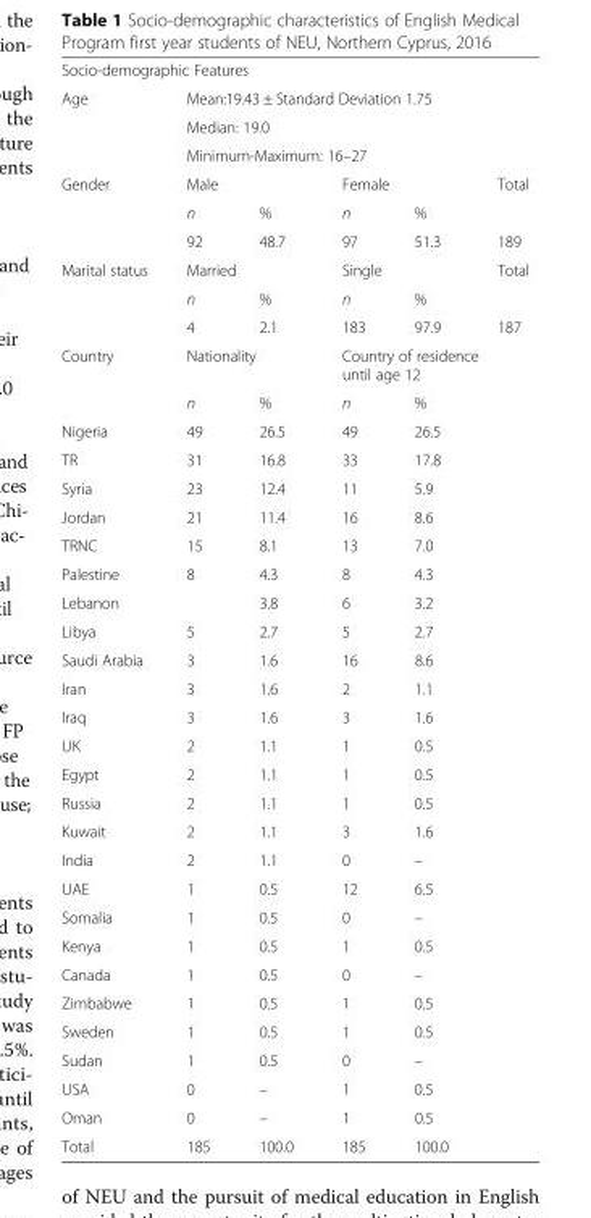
<table><tbody><tr><td colspan="6">Socio-demographic Features</td></tr><tr><td rowspan="3">Age</td><td colspan="5">Mean:19.43 ± Standard Deviation 1.75</td></tr><tr><td colspan="5">Median: 19.0</td></tr><tr><td colspan="5">Minimum-Maximum: 16–27</td></tr><tr><td rowspan="3">Gender</td><td colspan="2">Male</td><td colspan="2">Female</td><td rowspan="2">Total</td></tr><tr><td>n</td><td>%</td><td>n</td><td>%</td></tr><tr><td>92</td><td>48.7</td><td>97</td><td>51.3</td><td>189</td></tr><tr><td rowspan="3">Marital status</td><td colspan="2">Married</td><td colspan="2">Single</td><td rowspan="2">Total</td></tr><tr><td>n</td><td>%</td><td>n</td><td>%</td></tr><tr><td>4</td><td>2.1</td><td>183</td><td>97.9</td><td>187</td></tr><tr><td rowspan="2">Country</td><td colspan="2">Nationality</td><td colspan="3">Country of residence until age 12</td></tr><tr><td>n</td><td>%</td><td>n</td><td>%</td><td></td></tr><tr><td>Nigeria</td><td>49</td><td>26.5</td><td>49</td><td>26.5</td><td></td></tr><tr><td>TR</td><td>31</td><td>16.8</td><td>33</td><td>17.8</td><td></td></tr><tr><td>Syria</td><td>23</td><td>12.4</td><td>11</td><td>5.9</td><td></td></tr><tr><td>Jordan</td><td>21</td><td>11.4</td><td>16</td><td>8.6</td><td></td></tr><tr><td>TRNC</td><td>15</td><td>8.1</td><td>13</td><td>7.0</td><td></td></tr><tr><td>Palestine</td><td>8</td><td>4.3</td><td>8</td><td>4.3</td><td></td></tr><tr><td>Lebanon</td><td></td><td>3.8</td><td>6</td><td>3.2</td><td></td></tr><tr><td>Libya</td><td>5</td><td>2.7</td><td>5</td><td>2.7</td><td></td></tr><tr><td>Saudi Arabia</td><td>3</td><td>1.6</td><td>16</td><td>8.6</td><td></td></tr><tr><td>Iran</td><td>3</td><td>1.6</td><td>2</td><td>1.1</td><td></td></tr><tr><td>Iraq</td><td>3</td><td>1.6</td><td>3</td><td>1.6</td><td></td></tr><tr><td>UK</td><td>2</td><td>1.1</td><td>1</td><td>0.5</td><td></td></tr><tr><td>Egypt</td><td>2</td><td>1.1</td><td>1</td><td>0.5</td><td></td></tr><tr><td>Russia</td><td>2</td><td>1.1</td><td>1</td><td>0.5</td><td></td></tr><tr><td>Kuwait</td><td>2</td><td>1.1</td><td>3</td><td>1.6</td><td></td></tr><tr><td>India</td><td>2</td><td>1.1</td><td>0</td><td>–</td><td></td></tr><tr><td>UAE</td><td>1</td><td>0.5</td><td>12</td><td>6.5</td><td></td></tr><tr><td>Somalia</td><td>1</td><td>0.5</td><td>0</td><td>–</td><td></td></tr><tr><td>Kenya</td><td>1</td><td>0.5</td><td>1</td><td>0.5</td><td></td></tr><tr><td>Canada</td><td>1</td><td>0.5</td><td>0</td><td>–</td><td></td></tr><tr><td>Zimbabwe</td><td>1</td><td>0.5</td><td>1</td><td>0.5</td><td></td></tr><tr><td>Sweden</td><td>1</td><td>0.5</td><td>1</td><td>0.5</td><td></td></tr><tr><td>Sudan</td><td>1</td><td>0.5</td><td>0</td><td>–</td><td></td></tr><tr><td>USA</td><td>0</td><td>–</td><td>1</td><td>0.5</td><td></td></tr><tr><td>Oman</td><td>0</td><td>–</td><td>1</td><td>0.5</td><td></td></tr><tr><td>Total</td><td>185</td><td>100.0</td><td>185</td><td>100.0</td><td></td></tr></tbody></table>